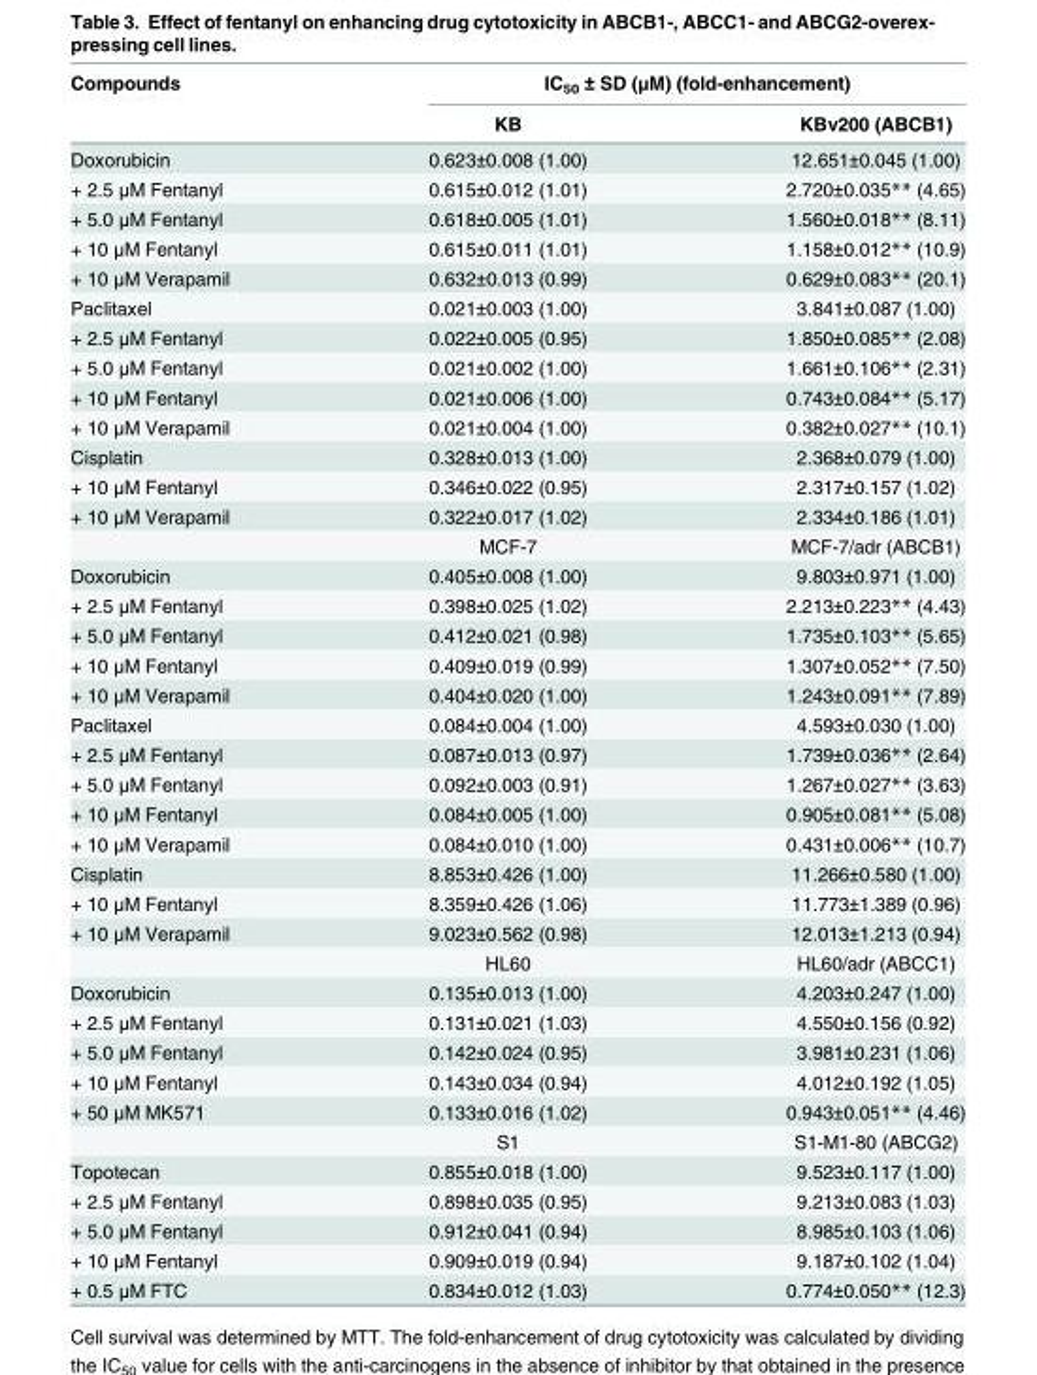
<table><thead><tr><td rowspan="2">Compounds</td><td colspan="2">IC<sub>50</sub> ± SD (μM) (fold-enhancement)</td></tr><tr><td>KB</td><td>KBv200 (ABCB1)</td></tr></thead><tbody><tr><td>Doxorubicin</td><td>0.623±0.008 (1.00)</td><td>12.651±0.045 (1.00)</td></tr><tr><td>+ 2.5 μM Fentanyl</td><td>0.615±0.012 (1.01)</td><td>2.720±0.035** (4.65)</td></tr><tr><td>+ 5.0 μM Fentanyl</td><td>0.618±0.005 (1.01)</td><td>1.560±0.018** (8.11)</td></tr><tr><td>+ 10 μM Fentanyl</td><td>0.615±0.011 (1.01)</td><td>1.158±0.012** (10.9)</td></tr><tr><td>+ 10 μM Verapamil</td><td>0.632±0.013 (0.99)</td><td>0.629±0.083** (20.1)</td></tr><tr><td>Paclitaxel</td><td>0.021±0.003 (1.00)</td><td>3.841±0.087 (1.00)</td></tr><tr><td>+ 2.5 μM Fentanyl</td><td>0.022±0.005 (0.95)</td><td>1.850±0.085** (2.08)</td></tr><tr><td>+ 5.0 μM Fentanyl</td><td>0.021±0.002 (1.00)</td><td>1.661±0.106** (2.31)</td></tr><tr><td>+ 10 μM Fentanyl</td><td>0.021±0.006 (1.00)</td><td>0.743±0.084** (5.17)</td></tr><tr><td>+ 10 μM Verapamil</td><td>0.021±0.004 (1.00)</td><td>0.382±0.027** (10.1)</td></tr><tr><td>Cisplatin</td><td>0.328±0.013 (1.00)</td><td>2.368±0.079 (1.00)</td></tr><tr><td>+ 10 μM Fentanyl</td><td>0.346±0.022 (0.95)</td><td>2.317±0.157 (1.02)</td></tr><tr><td rowspan="2">+ 10 μM Verapamil</td><td>0.322±0.017 (1.02)</td><td>2.334±0.186 (1.01)</td></tr><tr><td>MCF-7</td><td>MCF-7/adr (ABCB1)</td></tr><tr><td>Doxorubicin</td><td>0.405±0.008 (1.00)</td><td>9.803±0.971 (1.00)</td></tr><tr><td>+ 2.5 μM Fentanyl</td><td>0.398±0.025 (1.02)</td><td>2.213±0.223** (4.43)</td></tr><tr><td>+ 5.0 μM Fentanyl</td><td>0.412±0.021 (0.98)</td><td>1.735±0.103** (5.65)</td></tr><tr><td>+ 10 μM Fentanyl</td><td>0.409±0.019 (0.99)</td><td>1.307±0.052** (7.50)</td></tr><tr><td>+ 10 μM Verapamil</td><td>0.404±0.020 (1.00)</td><td>1.243±0.091** (7.89)</td></tr><tr><td>Paclitaxel</td><td>0.084±0.004 (1.00)</td><td>4.593±0.030 (1.00)</td></tr><tr><td>+ 2.5 μM Fentanyl</td><td>0.087±0.013 (0.97)</td><td>1.739±0.036** (2.64)</td></tr><tr><td>+ 5.0 μM Fentanyl</td><td>0.092±0.003 (0.91)</td><td>1.267±0.027** (3.63)</td></tr><tr><td>+ 10 μM Fentanyl</td><td>0.084±0.005 (1.00)</td><td>0.905±0.081** (5.08)</td></tr><tr><td>+ 10 μM Verapamil</td><td>0.084±0.010 (1.00)</td><td>0.431±0.006** (10.7)</td></tr><tr><td>Cisplatin</td><td>8.853±0.426 (1.00)</td><td>11.266±0.580 (1.00)</td></tr><tr><td>+ 10 μM Fentanyl</td><td>8.359±0.426 (1.06)</td><td>11.773±1.389 (0.96)</td></tr><tr><td rowspan="2">+ 10 μM Verapamil</td><td>9.023±0.562 (0.98)</td><td>12.013±1.213 (0.94)</td></tr><tr><td>HL60</td><td>HL60/adr (ABCC1)</td></tr><tr><td>Doxorubicin</td><td>0.135±0.013 (1.00)</td><td>4.203±0.247 (1.00)</td></tr><tr><td>+ 2.5 μM Fentanyl</td><td>0.131±0.021 (1.03)</td><td>4.550±0.156 (0.92)</td></tr><tr><td>+ 5.0 μM Fentanyl</td><td>0.142±0.024 (0.95)</td><td>3.981±0.231 (1.06)</td></tr><tr><td>+ 10 μM Fentanyl</td><td>0.143±0.034 (0.94)</td><td>4.012±0.192 (1.05)</td></tr><tr><td rowspan="2">+ 50 μM MK571</td><td>0.133±0.016 (1.02)</td><td>0.943±0.051** (4.46)</td></tr><tr><td>S1</td><td>S1-M1-80 (ABCG2)</td></tr><tr><td>Topotecan</td><td>0.855±0.018 (1.00)</td><td>9.523±0.117 (1.00)</td></tr><tr><td>+ 2.5 μM Fentanyl</td><td>0.898±0.035 (0.95)</td><td>9.213±0.083 (1.03)</td></tr><tr><td>+ 5.0 μM Fentanyl</td><td>0.912±0.041 (0.94)</td><td>8.985±0.103 (1.06)</td></tr><tr><td>+ 10 μM Fentanyl</td><td>0.909±0.019 (0.94)</td><td>9.187±0.102 (1.04)</td></tr><tr><td>+ 0.5 μM FTC</td><td>0.834±0.012 (1.03)</td><td>0.774±0.050** (12.3)</td></tr></tbody></table>